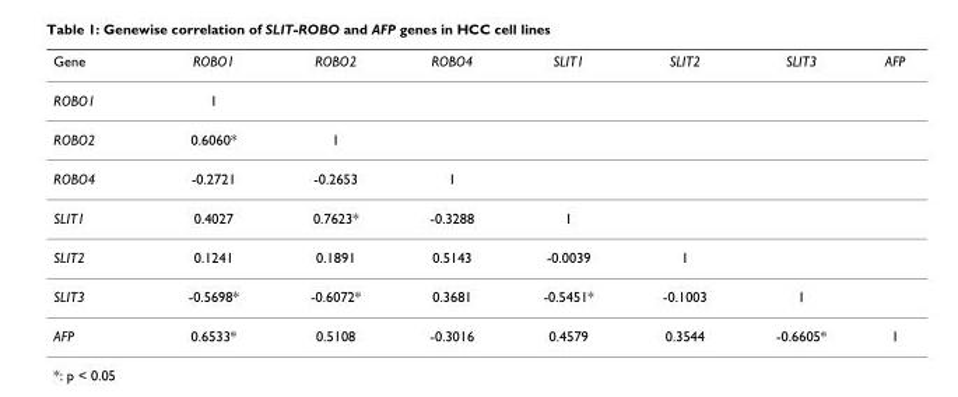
<table><thead><tr><td>Gene</td><td>ROBO1</td><td>ROBO2</td><td>ROBO4</td><td>SLIT1</td><td>SLIT2</td><td>SLIT3</td><td>AFP</td></tr></thead><tbody><tr><td>ROBO1</td><td>1</td><td></td><td></td><td></td><td></td><td></td><td></td></tr><tr><td>ROBO2</td><td>0.6060*</td><td>1</td><td></td><td></td><td></td><td></td><td></td></tr><tr><td>ROBO4</td><td>-0.2721</td><td>-0.2653</td><td>1</td><td></td><td></td><td></td><td></td></tr><tr><td>SLIT1</td><td>0.4027</td><td>0.7623*</td><td>-0.3288</td><td>1</td><td></td><td></td><td></td></tr><tr><td>SLIT2</td><td>0.1241</td><td>0.1891</td><td>0.5143</td><td>-0.0039</td><td>1</td><td></td><td></td></tr><tr><td>SLIT3</td><td>-0.5698*</td><td>-0.6072*</td><td>0.3681</td><td>-0.5451*</td><td>-0.1003</td><td>1</td><td></td></tr><tr><td>AFP</td><td>0.6533*</td><td>0.5108</td><td>-0.3016</td><td>0.4579</td><td>0.3544</td><td>-0.6605*</td><td>1</td></tr></tbody></table>